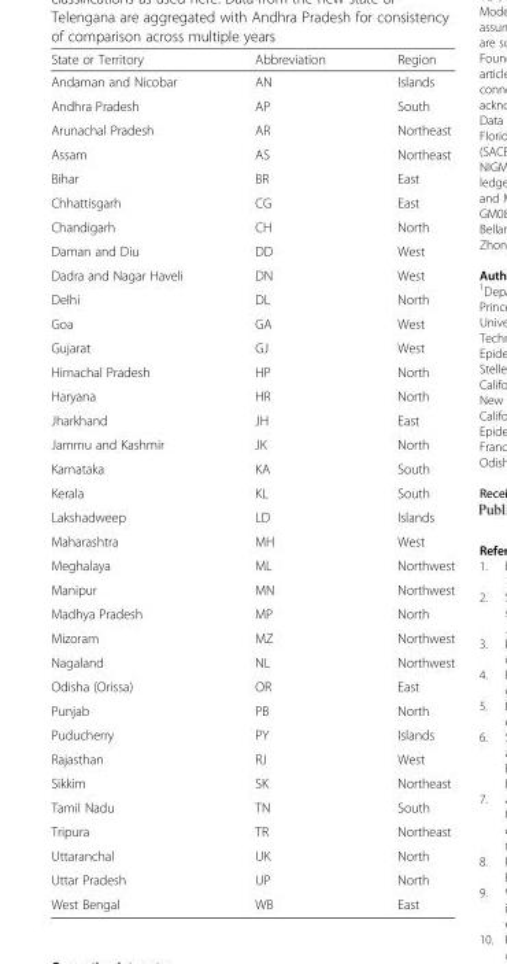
<table><thead><tr><td>State or Territory</td><td>Abbreviation</td><td>Region</td></tr></thead><tbody><tr><td>Andaman and Nicobar</td><td>AN</td><td>Islands</td></tr><tr><td>Andhra Pradesh</td><td>AP</td><td>South</td></tr><tr><td>Arunachal Pradesh</td><td>AR</td><td>Northeast</td></tr><tr><td>Assam</td><td>AS</td><td>Northeast</td></tr><tr><td>Bihar</td><td>BR</td><td>East</td></tr><tr><td>Chhattisgarh</td><td>CG</td><td>East</td></tr><tr><td>Chandigarh</td><td>CH</td><td>North</td></tr><tr><td>Daman and Diu</td><td>DD</td><td>West</td></tr><tr><td>Dadra and Nagar Haveli</td><td>DN</td><td>West</td></tr><tr><td>Delhi</td><td>DL</td><td>North</td></tr><tr><td>Goa</td><td>GA</td><td>West</td></tr><tr><td>Gujarat</td><td>GJ</td><td>West</td></tr><tr><td>Himachal Pradesh</td><td>HP</td><td>North</td></tr><tr><td>Haryana</td><td>HR</td><td>North</td></tr><tr><td>Jharkhand</td><td>JH</td><td>East</td></tr><tr><td>Jammu and Kashmir</td><td>JK</td><td>North</td></tr><tr><td>Karnataka</td><td>KA</td><td>South</td></tr><tr><td>Kerala</td><td>KL</td><td>South</td></tr><tr><td>Lakshadweep</td><td>LD</td><td>Islands</td></tr><tr><td>Maharashtra</td><td>MH</td><td>West</td></tr><tr><td>Meghalaya</td><td>ML</td><td>Northwest</td></tr><tr><td>Manipur</td><td>MN</td><td>Northwest</td></tr><tr><td>Madhya Pradesh</td><td>MP</td><td>North</td></tr><tr><td>Mizoram</td><td>MZ</td><td>Northwest</td></tr><tr><td>Nagaland</td><td>NL</td><td>Northwest</td></tr><tr><td>Odisha (Orissa)</td><td>OR</td><td>East</td></tr><tr><td>Punjab</td><td>PB</td><td>North</td></tr><tr><td>Puducherry</td><td>PY</td><td>Islands</td></tr><tr><td>Rajasthan</td><td>RJ</td><td>West</td></tr><tr><td>Sikkim</td><td>SK</td><td>Northeast</td></tr><tr><td>Tamil Nadu</td><td>TN</td><td>South</td></tr><tr><td>Tripura</td><td>TR</td><td>Northeast</td></tr><tr><td>Uttaranchal</td><td>UK</td><td>North</td></tr><tr><td>Uttar Pradesh</td><td>UP</td><td>North</td></tr><tr><td>West Bengal</td><td>WB</td><td>East</td></tr></tbody></table>